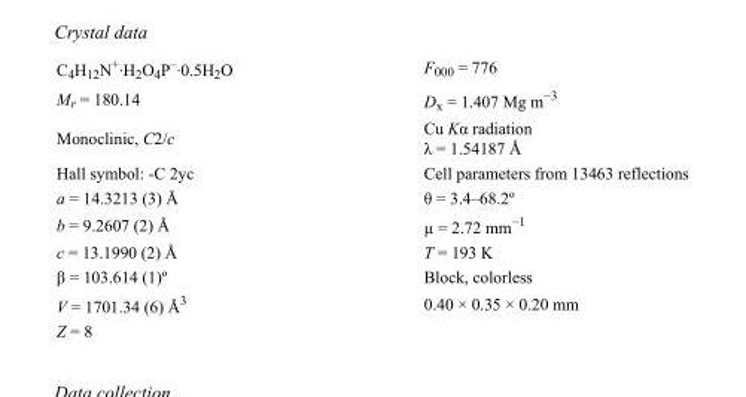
<table><tbody><tr><td>C<sub>4</sub>H<sub>12</sub>N<sup>+</sup>·H<sub>2</sub>O<sub>4</sub>P<sup>–</sup>·0.5H<sub>2</sub>O</td><td>F000 = 776</td></tr><tr><td>M<sub>r</sub> = 180.14</td><td>D<sub>x</sub> = 1.407 Mg m<sup>−3</sup></td></tr><tr><td>Monoclinic, C2/c</td><td>Cu Kα radiation λ = 1.54187 Å</td></tr><tr><td>Hall symbol: -C 2yc</td><td>Cell parameters from 13463 reflections</td></tr><tr><td>a = 14.3213 (3) Å</td><td>θ = 3.4–68.2º</td></tr><tr><td>b = 9.2607 (2) Å</td><td>µ = 2.72 mm<sup>−1</sup></td></tr><tr><td>c = 13.1990 (2) Å</td><td>T = 193 K</td></tr><tr><td>β = 103.614 (1)º</td><td>Block, colorless</td></tr><tr><td>V = 1701.34 (6) Å<sup>3</sup></td><td>0.40 × 0.35 × 0.20 mm</td></tr><tr><td>Z = 8</td><td></td></tr></tbody></table>